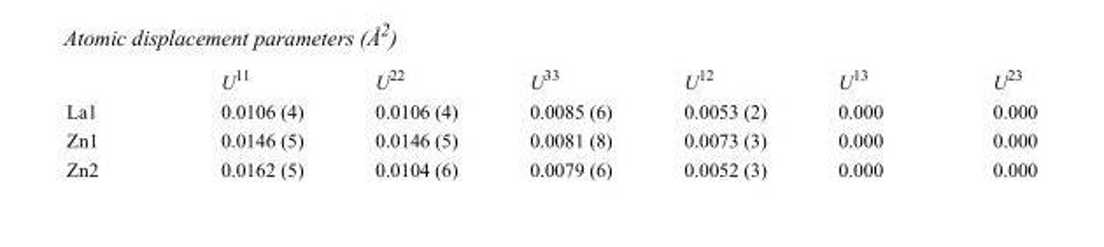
<table><thead><tr><td></td><td>U<sup>11</sup></td><td>U<sup>22</sup></td><td>U<sup>33</sup></td><td>U<sup>12</sup></td><td>U<sup>13</sup></td><td>U<sup>23</sup></td></tr></thead><tbody><tr><td>La1</td><td>0.0106 (4)</td><td>0.0106 (4)</td><td>0.0085 (6)</td><td>0.0053 (2)</td><td>0.000</td><td>0.000</td></tr><tr><td>Zn1</td><td>0.0146 (5)</td><td>0.0146 (5)</td><td>0.0081 (8)</td><td>0.0073 (3)</td><td>0.000</td><td>0.000</td></tr><tr><td>Zn2</td><td>0.0162 (5)</td><td>0.0104 (6)</td><td>0.0079 (6)</td><td>0.0052 (3)</td><td>0.000</td><td>0.000</td></tr></tbody></table>